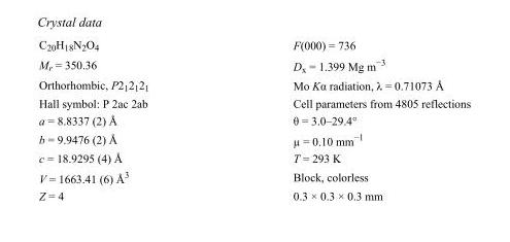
<table><tbody><tr><td>C<sub>20</sub>H<sub>18</sub>N<sub>2</sub>O<sub>4</sub></td><td>F(000) = 736</td></tr><tr><td>M<sub>r</sub> = 350.36</td><td>D<sub>x</sub> = 1.399 Mg m<sup>−3</sup></td></tr><tr><td>Orthorhombic, P2<sub>1</sub>2<sub>1</sub>2<sub>1</sub></td><td>Mo Kα radiation, λ = 0.71073 Å</td></tr><tr><td>Hall symbol: P 2ac 2ab</td><td>Cell parameters from 4805 reflections</td></tr><tr><td>a = 8.8337 (2) Å</td><td>θ = 3.0–29.4°</td></tr><tr><td>b = 9.9476 (2) Å</td><td>µ = 0.10 mm<sup>−1</sup></td></tr><tr><td>c = 18.9295 (4) Å</td><td>T = 293 K</td></tr><tr><td>V = 1663.41 (6) Å<sup>3</sup></td><td>Block, colorless</td></tr><tr><td>Z = 4</td><td>0.3 × 0.3 × 0.3 mm</td></tr></tbody></table>